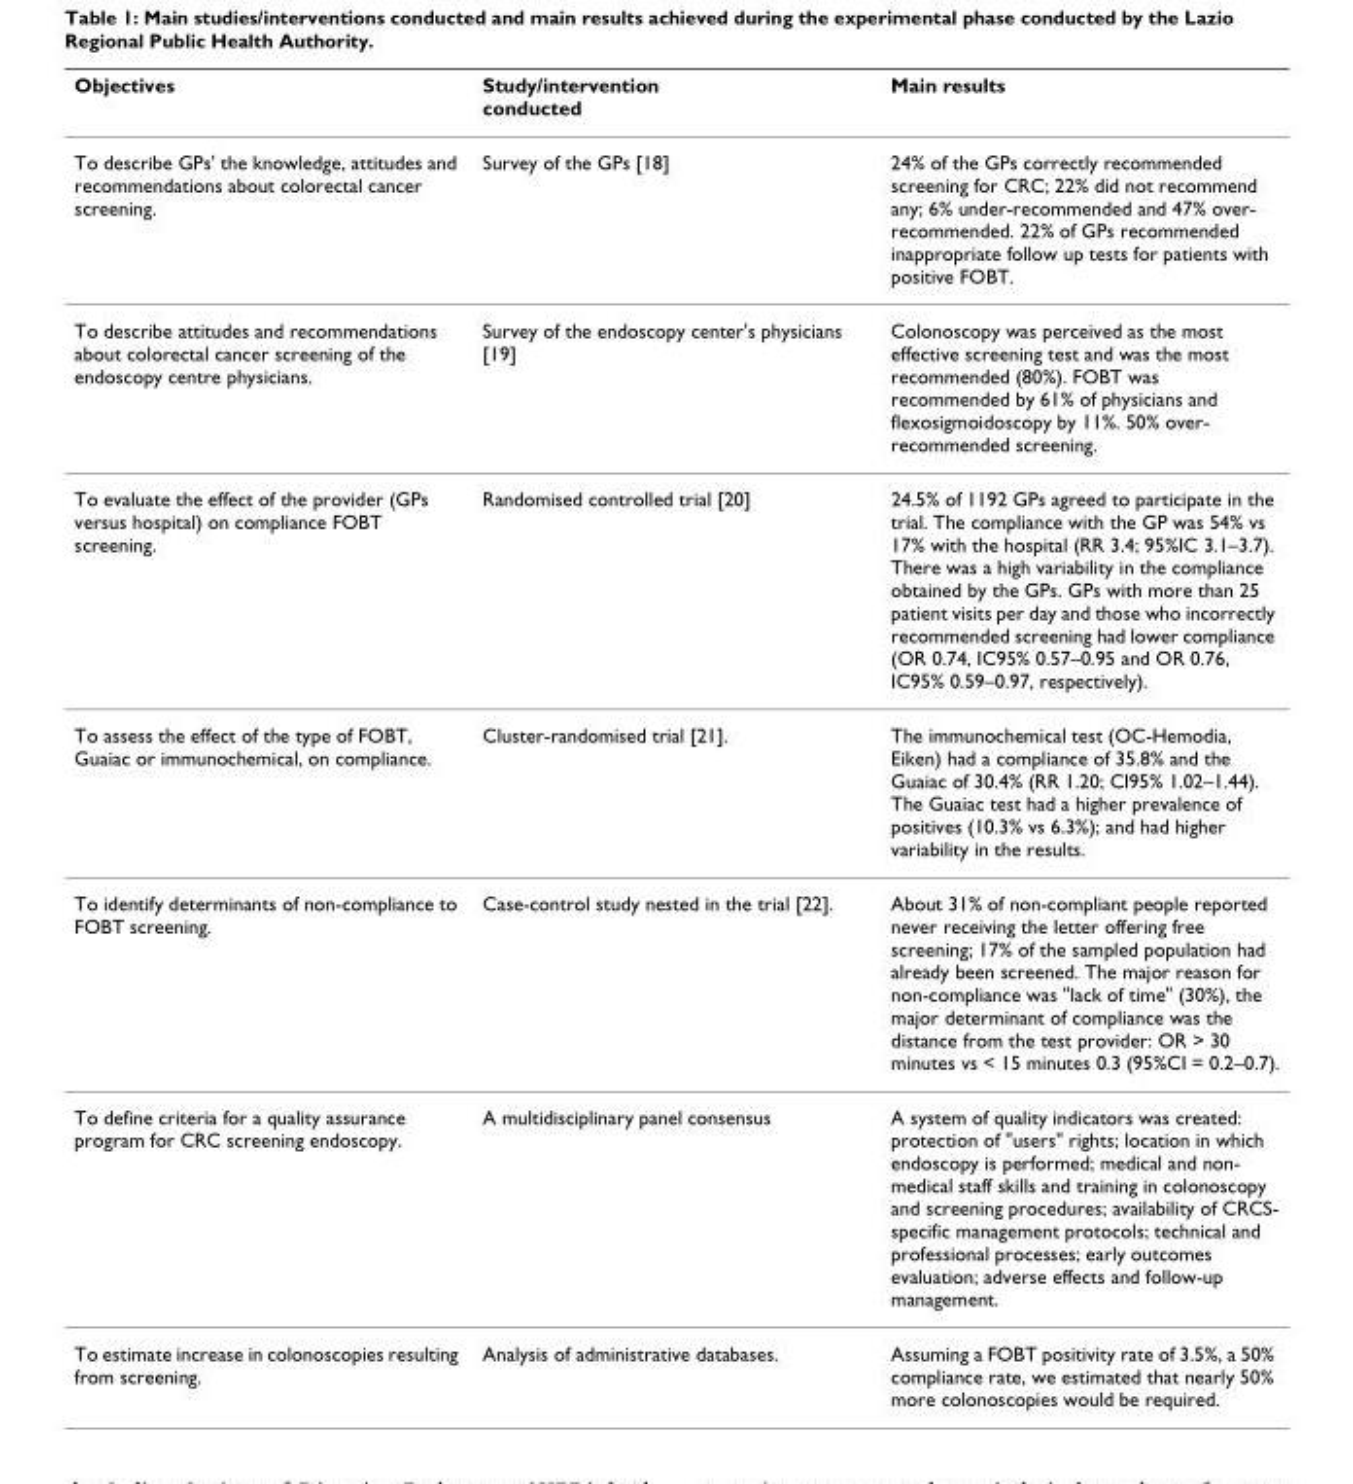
<table><thead><tr><td>Objectives</td><td>Study/intervention conducted</td><td>Main results</td></tr></thead><tbody><tr><td>To describe GPs&#x27; the knowledge, attitudes and recommendations about colorectal cancer screening.</td><td>Survey of the GPs [18]</td><td>24% of the GPs correctly recommended screening for CRC; 22% did not recommend any; 6% under-recommended and 47% over- recommended. 22% of GPs recommended inappropriate follow up tests for patients with positive FOBT.</td></tr><tr><td>To describe attitudes and recommendations about colorectal cancer screening of the endoscopy centre physicians.</td><td>Survey of the endoscopy center&#x27;s physicians [19]</td><td>Colonoscopy was perceived as the most effective screening test and was the most recommended (80%). FOBT was recommended by 61% of physicians and flexosigmoidoscopy by 11%. 50% over- recommended screening.</td></tr><tr><td>To evaluate the effect of the provider (GPs versus hospital) on compliance FOBT screening.</td><td>Randomised controlled trial [20]</td><td>24.5% of 1192 GPs agreed to participate in the trial. The compliance with the GP was 54% vs 17% with the hospital (RR 3.4; 95%IC 3.1–3.7). There was a high variability in the compliance obtained by the GPs. GPs with more than 25 patient visits per day and those who incorrectly recommended screening had lower compliance (OR 0.74, IC95% 0.57–0.95 and OR 0.76, IC95% 0.59–0.97, respectively).</td></tr><tr><td>To assess the effect of the type of FOBT, Guaiac or immunochemical, on compliance.</td><td>Cluster-randomised trial [21].</td><td>The immunochemical test (OC-Hemodia, Eiken) had a compliance of 35.8% and the Guaiac of 30.4% (RR 1.20; CI95% 1.02–1.44). The Guaiac test had a higher prevalence of positives (10.3% vs 6.3%); and had higher variability in the results.</td></tr><tr><td>To identify determinants of non-compliance to FOBT screening.</td><td>Case-control study nested in the trial [22].</td><td>About 31% of non-compliant people reported never receiving the letter offering free screening; 17% of the sampled population had already been screened. The major reason for non-compliance was &quot;lack of time&quot; (30%), the major determinant of compliance was the distance from the test provider: OR &gt; 30 minutes vs &lt; 15 minutes 0.3 (95%CI = 0.2–0.7).</td></tr><tr><td>To define criteria for a quality assurance program for CRC screening endoscopy.</td><td>A multidisciplinary panel consensus</td><td>A system of quality indicators was created: protection of &quot;users&quot; rights; location in which endoscopy is performed; medical and non- medical staff skills and training in colonoscopy and screening procedures; availability of CRCS- specific management protocols; technical and professional processes; early outcomes evaluation; adverse effects and follow-up management.</td></tr><tr><td>To estimate increase in colonoscopies resulting from screening.</td><td>Analysis of administrative databases.</td><td>Assuming a FOBT positivity rate of 3.5%, a 50% compliance rate, we estimated that nearly 50% more colonoscopies would be required.</td></tr></tbody></table>